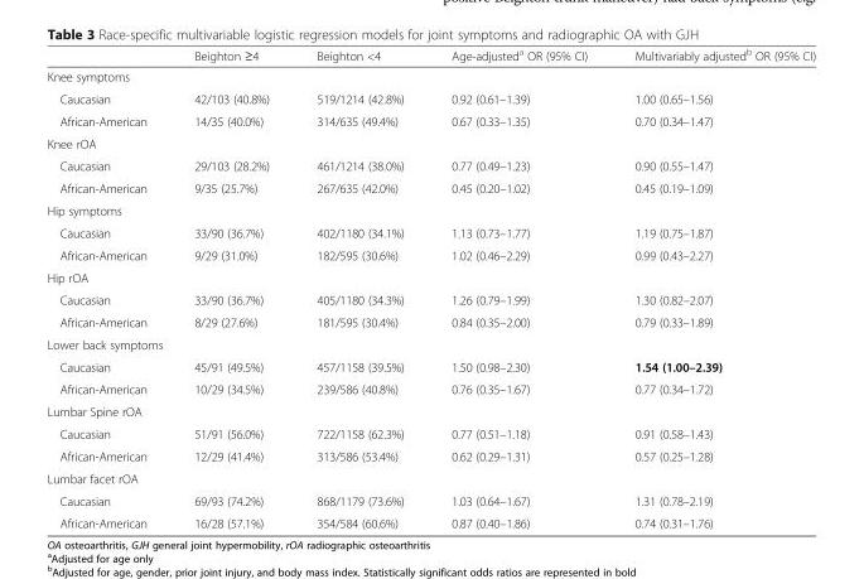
<table><thead><tr><td></td><td>Beighton ≥4</td><td>Beighton &lt;4</td><td>Age-adjusted<sup>a</sup> OR (95% CI)</td><td>Multivariably adjusted<sup>b</sup> OR (95% CI)</td></tr></thead><tbody><tr><td colspan="5">Knee symptoms</td></tr><tr><td>Caucasian</td><td>42/103 (40.8%)</td><td>519/1214 (42.8%)</td><td>0.92 (0.61–1.39)</td><td>1.00 (0.65–1.56)</td></tr><tr><td>African-American</td><td>14/35 (40.0%)</td><td>314/635 (49.4%)</td><td>0.67 (0.33–1.35)</td><td>0.70 (0.34–1.47)</td></tr><tr><td colspan="5">Knee rOA</td></tr><tr><td>Caucasian</td><td>29/103 (28.2%)</td><td>461/1214 (38.0%)</td><td>0.77 (0.49–1.23)</td><td>0.90 (0.55–1.47)</td></tr><tr><td>African-American</td><td>9/35 (25.7%)</td><td>267/635 (42.0%)</td><td>0.45 (0.20–1.02)</td><td>0.45 (0.19–1.09)</td></tr><tr><td colspan="5">Hip symptoms</td></tr><tr><td>Caucasian</td><td>33/90 (36.7%)</td><td>402/1180 (34.1%)</td><td>1.13 (0.73–1.77)</td><td>1.19 (0.75–1.87)</td></tr><tr><td>African-American</td><td>9/29 (31.0%)</td><td>182/595 (30.6%)</td><td>1.02 (0.46–2.29)</td><td>0.99 (0.43–2.27)</td></tr><tr><td colspan="5">Hip rOA</td></tr><tr><td>Caucasian</td><td>33/90 (36.7%)</td><td>405/1180 (34.3%)</td><td>1.26 (0.79–1.99)</td><td>1.30 (0.82–2.07)</td></tr><tr><td>African-American</td><td>8/29 (27.6%)</td><td>181/595 (30.4%)</td><td>0.84 (0.35–2.00)</td><td>0.79 (0.33–1.89)</td></tr><tr><td colspan="5">Lower back symptoms</td></tr><tr><td>Caucasian</td><td>45/91 (49.5%)</td><td>457/1158 (39.5%)</td><td>1.50 (0.98–2.30)</td><td>1.54 (1.00–2.39)</td></tr><tr><td>African-American</td><td>10/29 (34.5%)</td><td>239/586 (40.8%)</td><td>0.76 (0.35–1.67)</td><td>0.77 (0.34–1.72)</td></tr><tr><td colspan="5">Lumbar Spine rOA</td></tr><tr><td>Caucasian</td><td>51/91 (56.0%)</td><td>722/1158 (62.3%)</td><td>0.77 (0.51–1.18)</td><td>0.91 (0.58–1.43)</td></tr><tr><td>African-American</td><td>12/29 (41.4%)</td><td>313/586 (53.4%)</td><td>0.62 (0.29–1.31)</td><td>0.57 (0.25–1.28)</td></tr><tr><td colspan="5">Lumbar facet rOA</td></tr><tr><td>Caucasian</td><td>69/93 (74.2%)</td><td>868/1179 (73.6%)</td><td>1.03 (0.64–1.67)</td><td>1.31 (0.78–2.19)</td></tr><tr><td>African-American</td><td>16/28 (57.1%)</td><td>354/584 (60.6%)</td><td>0.87 (0.40–1.86)</td><td>0.74 (0.31–1.76)</td></tr></tbody></table>